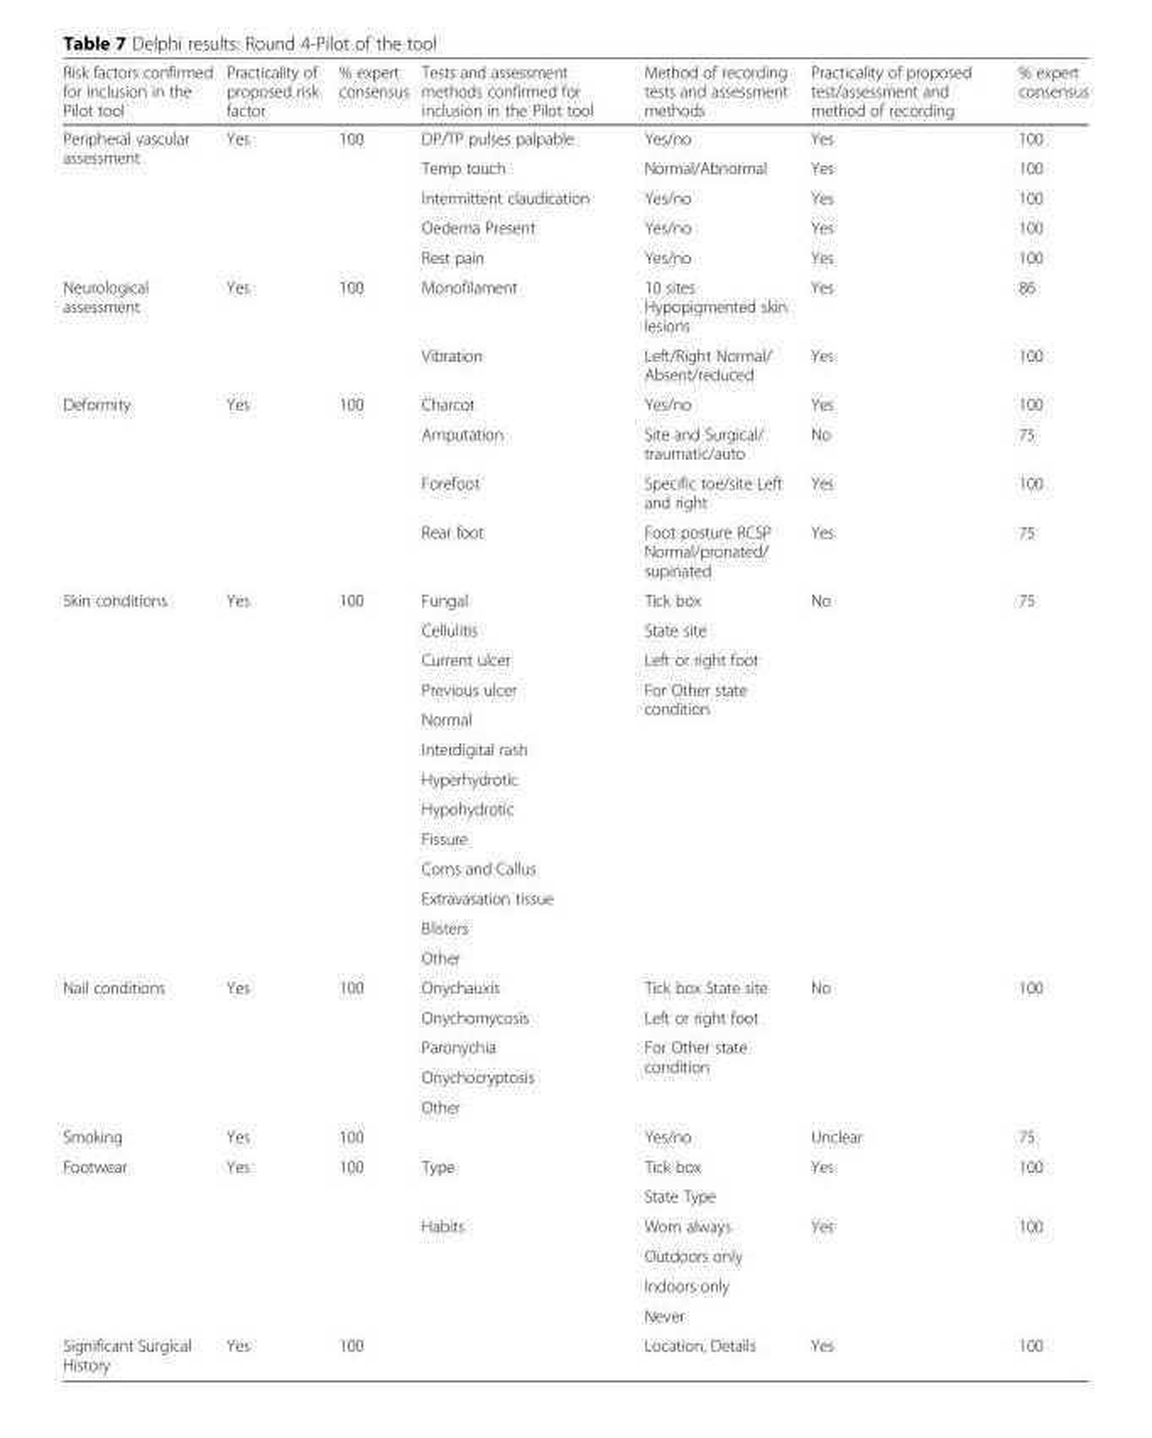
<table><thead><tr><td>Risk factors confirmed for inclusion in the Pilot tool</td><td>Practicality of proposed risk factor</td><td>% expert consensus</td><td>Tests and assessment methods confirmed for inclusion in the Pilot tool</td><td>Method of recording tests and assessment methods</td><td>Practicality of proposed test/assessment and method of recording</td><td>% expert consensus</td></tr></thead><tbody><tr><td rowspan="5">Peripheral vascular assessment</td><td rowspan="5">Yes</td><td rowspan="5">100</td><td>DP/TP pulses palpable</td><td>Yes/no</td><td>Yes</td><td>100</td></tr><tr><td>Temp touch</td><td>Normal/Abnormal</td><td>Yes</td><td>100</td></tr><tr><td>Intermittent claudication</td><td>Yes/no</td><td>Yes</td><td>100</td></tr><tr><td>Oedema Present</td><td>Yes/no</td><td>Yes</td><td>100</td></tr><tr><td>Rest pain</td><td>Yes/no</td><td>Yes</td><td>100</td></tr><tr><td rowspan="2">Neurological assessment</td><td rowspan="2">Yes</td><td rowspan="2">100</td><td>Monofilament</td><td>10 sites Hypopigmented skin lesions</td><td>Yes</td><td>86</td></tr><tr><td>Vibration</td><td>Left/Right Normal/ Absent/reduced</td><td>Yes</td><td>100</td></tr><tr><td rowspan="4">Deformity</td><td rowspan="4">Yes</td><td rowspan="4">100</td><td>Charcot</td><td>Yes/no</td><td>Yes</td><td>100</td></tr><tr><td>Amputation</td><td>Site and Surgical/ traumatic/auto</td><td>No</td><td>75</td></tr><tr><td>Forefoot</td><td>Specific toe/site Left and right</td><td>Yes</td><td>100</td></tr><tr><td>Rear foot</td><td>Foot posture RCSP Normal/pronated/ supinated</td><td>Yes</td><td>75</td></tr><tr><td rowspan="13">Skin conditions</td><td rowspan="13">Yes</td><td rowspan="13">100</td><td>Fungal</td><td>Tick box</td><td rowspan="13">No</td><td rowspan="13">75</td></tr><tr><td>Cellulitis</td><td>State site</td></tr><tr><td>Current ulcer</td><td>Left or right foot</td></tr><tr><td>Previous ulcer</td><td rowspan="10">For Other state condition</td></tr><tr><td>Normal</td></tr><tr><td>Interdigital rash</td></tr><tr><td>Hyperhydrotic</td></tr><tr><td>Hypohydrotic</td></tr><tr><td>Fissure</td></tr><tr><td>Corns and Callus</td></tr><tr><td>Extravasation tissue</td></tr><tr><td>Blisters</td></tr><tr><td>Other</td></tr><tr><td rowspan="5">Nail conditions</td><td rowspan="5">Yes</td><td rowspan="5">100</td><td>Onychauxis</td><td>Tick box State site</td><td rowspan="5">No</td><td rowspan="5">100</td></tr><tr><td>Onychomycosis</td><td>Left or right foot</td></tr><tr><td>Paronychia</td><td rowspan="3">For Other state condition</td></tr><tr><td>Onychocryptosis</td></tr><tr><td>Other</td></tr><tr><td>Smoking</td><td>Yes</td><td>100</td><td></td><td>Yes/no</td><td>Unclear</td><td>75</td></tr><tr><td rowspan="6">Footwear</td><td rowspan="6">Yes</td><td rowspan="6">100</td><td rowspan="2">Type</td><td>Tick box</td><td rowspan="2">Yes</td><td rowspan="2">100</td></tr><tr><td>State Type</td></tr><tr><td rowspan="4">Habits</td><td>Worn always</td><td rowspan="4">Yes</td><td rowspan="4">100</td></tr><tr><td>Outdoors only</td></tr><tr><td>Indoors only</td></tr><tr><td>Never</td></tr><tr><td>Significant Surgical History</td><td>Yes</td><td>100</td><td></td><td>Location, Details</td><td>Yes</td><td>100</td></tr></tbody></table>